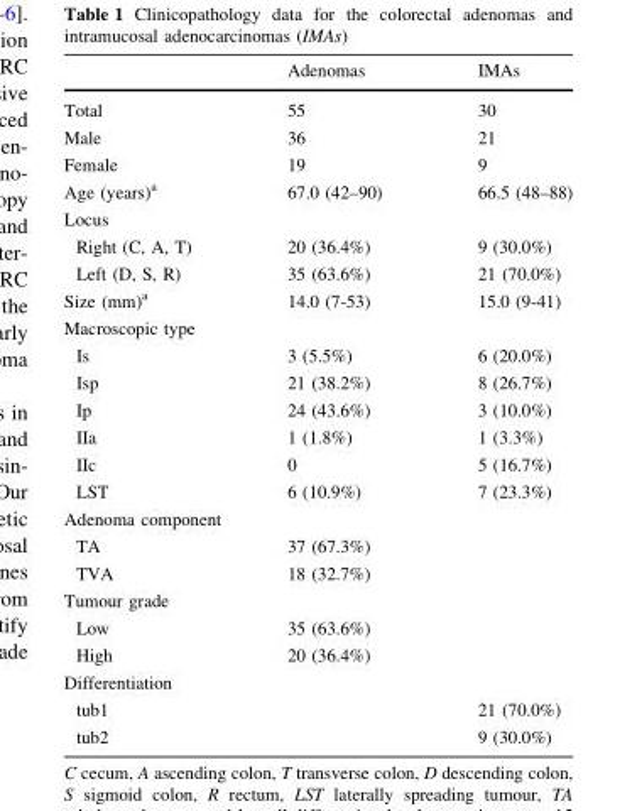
<table><thead><tr><td></td><td>Adenomas</td><td>IMAs</td></tr></thead><tbody><tr><td>Total</td><td>55</td><td>30</td></tr><tr><td>Male</td><td>36</td><td>21</td></tr><tr><td>Female</td><td>19</td><td>9</td></tr><tr><td>Age (years)<sup>a</sup></td><td>67.0 (42–90)</td><td>66.5 (48–88)</td></tr><tr><td colspan="3">Locus</td></tr><tr><td>Right (C, A, T)</td><td>20 (36.4%)</td><td>9 (30.0%)</td></tr><tr><td>Left (D, S, R)</td><td>35 (63.6%)</td><td>21 (70.0%)</td></tr><tr><td>Size (mm)<sup>a</sup></td><td>14.0 (7-53)</td><td>15.0 (9-41)</td></tr><tr><td colspan="3">Macroscopic type</td></tr><tr><td>Is</td><td>3 (5.5%)</td><td>6 (20.0%)</td></tr><tr><td>Isp</td><td>21 (38.2%)</td><td>8 (26.7%)</td></tr><tr><td>Ip</td><td>24 (43.6%)</td><td>3 (10.0%)</td></tr><tr><td>IIa</td><td>1 (1.8%)</td><td>1 (3.3%)</td></tr><tr><td>IIc</td><td>0</td><td>5 (16.7%)</td></tr><tr><td>LST</td><td>6 (10.9%)</td><td>7 (23.3%)</td></tr><tr><td colspan="3">Adenoma component</td></tr><tr><td>TA</td><td>37 (67.3%)</td><td></td></tr><tr><td>TVA</td><td>18 (32.7%)</td><td></td></tr><tr><td colspan="3">Tumour grade</td></tr><tr><td>Low</td><td>35 (63.6%)</td><td></td></tr><tr><td>High</td><td>20 (36.4%)</td><td></td></tr><tr><td colspan="3">Differentiation</td></tr><tr><td>tub1</td><td></td><td>21 (70.0%)</td></tr><tr><td>tub2</td><td></td><td>9 (30.0%)</td></tr></tbody></table>